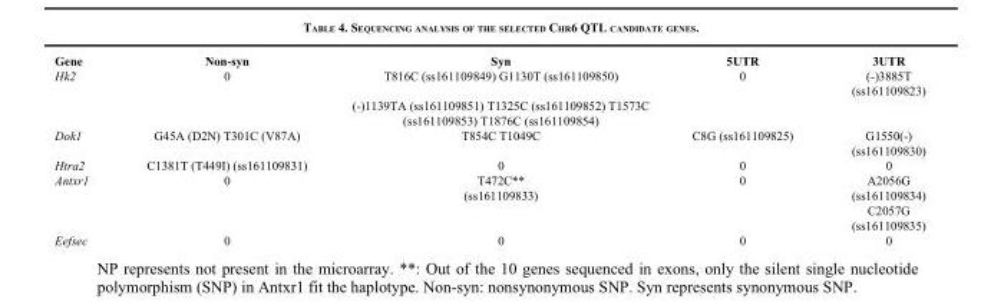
<table><thead><tr><td>Gene</td><td>Non-syn</td><td>Syn</td><td>5UTR</td><td>3UTR</td></tr></thead><tbody><tr><td rowspan="2">Hk2</td><td>0</td><td>T816C (ss161109849) G1130T (ss161109850)</td><td>0</td><td>(-)3885T (ss161109823)</td></tr><tr><td></td><td>(-)1139TA (ss161109851) T1325C (ss161109852) T1573C (ss161109853) T1876C (ss161109854)</td><td></td><td></td></tr><tr><td>Dok1</td><td>G45A (D2N) T301C (V87A)</td><td>T854C T1049C</td><td>C8G (ss161109825)</td><td>G1550(-) (ss161109830)</td></tr><tr><td>Htra2</td><td>C1381T (T449I) (ss161109831)</td><td>0</td><td>0</td><td>0</td></tr><tr><td>Antxr1</td><td>0</td><td>T472C** (ss161109833)</td><td>0</td><td>A2056G (ss161109834) C2057G (ss161109835)</td></tr><tr><td>Eefsec</td><td>0</td><td>0</td><td>0</td><td>0</td></tr></tbody></table>